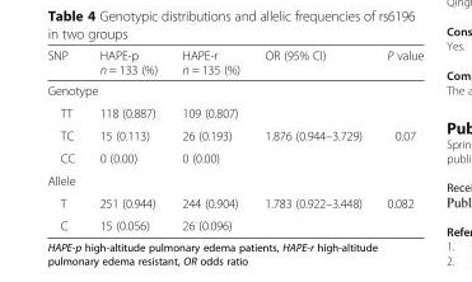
<table><thead><tr><td>SNP</td><td>HAPE-p n = 133 (%)</td><td>HAPE-r n = 135 (%)</td><td>OR (95% CI)</td><td>P value</td></tr></thead><tbody><tr><td colspan="5">Genotype</td></tr><tr><td>TT</td><td>118 (0.887)</td><td>109 (0.807)</td><td></td><td></td></tr><tr><td>TC</td><td>15 (0.113)</td><td>26 (0.193)</td><td>1.876 (0.944–3.729)</td><td>0.07</td></tr><tr><td>CC</td><td>0 (0.00)</td><td>0 (0.00)</td><td></td><td></td></tr><tr><td colspan="5">Allele</td></tr><tr><td>T</td><td>251 (0.944)</td><td>244 (0.904)</td><td>1.783 (0.922–3.448)</td><td>0.082</td></tr><tr><td>C</td><td>15 (0.056)</td><td>26 (0.096)</td><td></td><td></td></tr></tbody></table>